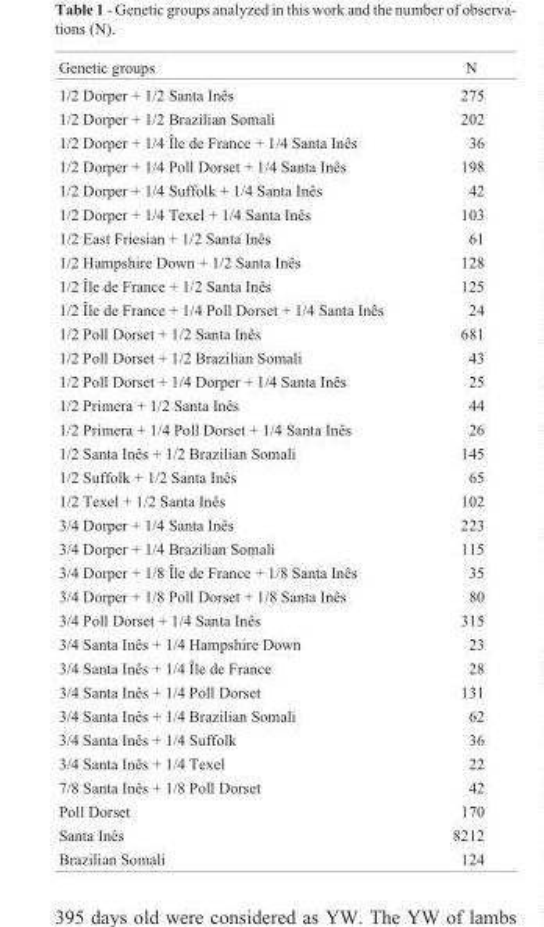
<table><thead><tr><td>Genetic groups</td><td>N</td></tr></thead><tbody><tr><td>1/2 Dorper + 1/2 Santa Inês</td><td>275</td></tr><tr><td>1/2 Dorper + 1/2 Brazilian Somali</td><td>202</td></tr><tr><td>1/2 Dorper + 1/4 Île de France + 1/4 Santa Inês</td><td>36</td></tr><tr><td>1/2 Dorper + 1/4 Poll Dorset + 1/4 Santa Inês</td><td>198</td></tr><tr><td>1/2 Dorper + 1/4 Suffolk + 1/4 Santa Inês</td><td>42</td></tr><tr><td>1/2 Dorper + 1/4 Texel + 1/4 Santa Inês</td><td>103</td></tr><tr><td>1/2 East Friesian + 1/2 Santa Inês</td><td>61</td></tr><tr><td>1/2 Hampshire Down + 1/2 Santa Inês</td><td>128</td></tr><tr><td>1/2 Île de France + 1/2 Santa Inês</td><td>125</td></tr><tr><td>1/2 Île de France + 1/4 Poll Dorset + 1/4 Santa Inês</td><td>24</td></tr><tr><td>1/2 Poll Dorset + 1/2 Santa Inês</td><td>681</td></tr><tr><td>1/2 Poll Dorset + 1/2 Brazilian Somali</td><td>43</td></tr><tr><td>1/2 Poll Dorset + 1/4 Dorper + 1/4 Santa Inês</td><td>25</td></tr><tr><td>1/2 Primera + 1/2 Santa Inês</td><td>44</td></tr><tr><td>1/2 Primera + 1/4 Poll Dorset + 1/4 Santa Inês</td><td>26</td></tr><tr><td>1/2 Santa Inês + 1/2 Brazilian Somali</td><td>145</td></tr><tr><td>1/2 Suffolk + 1/2 Santa Inês</td><td>65</td></tr><tr><td>1/2 Texel + 1/2 Santa Inês</td><td>102</td></tr><tr><td>3/4 Dorper + 1/4 Santa Inês</td><td>223</td></tr><tr><td>3/4 Dorper + 1/4 Brazilian Somali</td><td>115</td></tr><tr><td>3/4 Dorper + 1/8 Île de France + 1/8 Santa Inês</td><td>35</td></tr><tr><td>3/4 Dorper + 1/8 Poll Dorset + 1/8 Santa Inês</td><td>80</td></tr><tr><td>3/4 Poll Dorset + 1/4 Santa Inês</td><td>315</td></tr><tr><td>3/4 Santa Inês + 1/4 Hampshire Down</td><td>23</td></tr><tr><td>3/4 Santa Inês + 1/4 Île de France</td><td>28</td></tr><tr><td>3/4 Santa Inês + 1/4 Poll Dorset</td><td>131</td></tr><tr><td>3/4 Santa Inês + 1/4 Brazilian Somali</td><td>62</td></tr><tr><td>3/4 Santa Inês + 1/4 Suffolk</td><td>36</td></tr><tr><td>3/4 Santa Inês + 1/4 Texel</td><td>22</td></tr><tr><td>7/8 Santa Inês + 1/8 Poll Dorset</td><td>42</td></tr><tr><td>Poll Dorset</td><td>170</td></tr><tr><td>Santa Inês</td><td>8212</td></tr><tr><td>Brazilian Somali</td><td>124</td></tr></tbody></table>